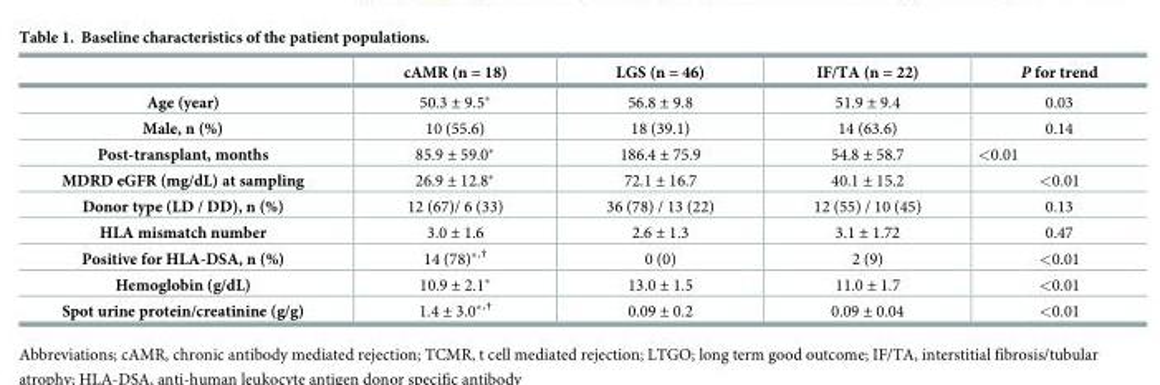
<table><thead><tr><td></td><td>cAMR (n = 18)</td><td>LGS (n = 46)</td><td>IF/TA (n = 22)</td><td>P for trend</td></tr></thead><tbody><tr><td>Age (year)</td><td>50.3 ± 9.5*</td><td>56.8 ± 9.8</td><td>51.9 ± 9.4</td><td>0.03</td></tr><tr><td>Male, n (%)</td><td>10 (55.6)</td><td>18 (39.1)</td><td>14 (63.6)</td><td>0.14</td></tr><tr><td>Post-transplant, months</td><td>85.9 ± 59.0*</td><td>186.4 ± 75.9</td><td>54.8 ± 58.7</td><td>&lt;0.01</td></tr><tr><td>MDRD eGFR (mg/dL) at sampling</td><td>26.9 ± 12.8*</td><td>72.1 ± 16.7</td><td>40.1 ± 15.2</td><td>&lt;0.01</td></tr><tr><td>Donor type (LD / DD), n (%)</td><td>12 (67)/ 6 (33)</td><td>36 (78) / 13 (22)</td><td>12 (55) / 10 (45)</td><td>0.13</td></tr><tr><td>HLA mismatch number</td><td>3.0 ± 1.6</td><td>2.6 ± 1.3</td><td>3.1 ± 1.72</td><td>0.47</td></tr><tr><td>Positive for HLA-DSA, n (%)</td><td>14 (78)*<sup>,†</sup></td><td>0 (0)</td><td>2 (9)</td><td>&lt;0.01</td></tr><tr><td>Hemoglobin (g/dL)</td><td>10.9 ± 2.1*</td><td>13.0 ± 1.5</td><td>11.0 ± 1.7</td><td>&lt;0.01</td></tr><tr><td>Spot urine protein/creatinine (g/g)</td><td>1.4 ± 3.0*<sup>,†</sup></td><td>0.09 ± 0.2</td><td>0.09 ± 0.04</td><td>&lt;0.01</td></tr></tbody></table>